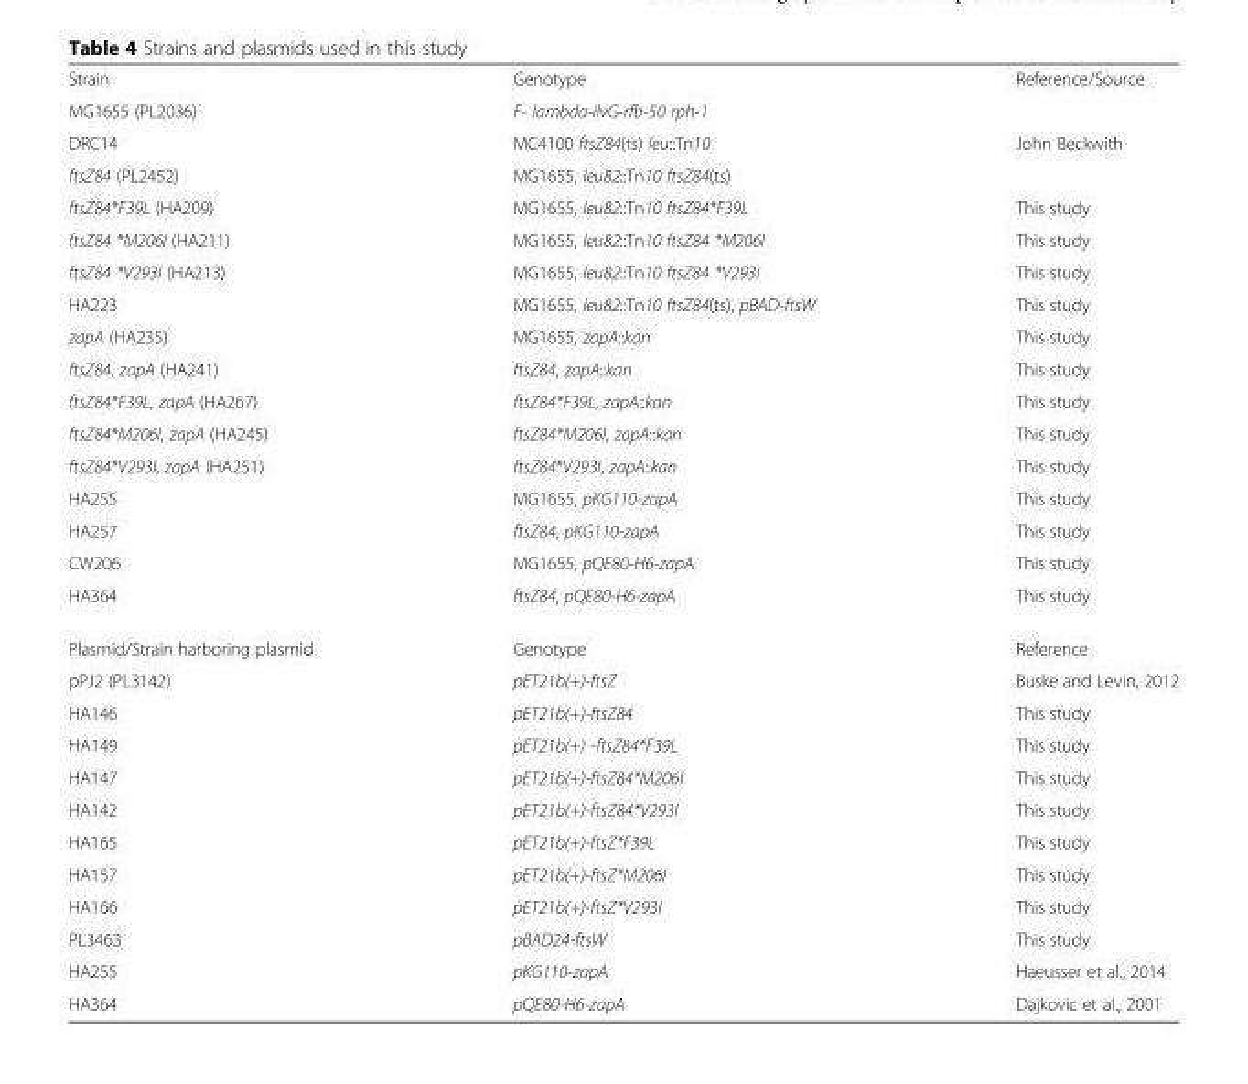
<table><tbody><tr><td>Strain</td><td>Genotype</td><td>Reference/Source</td></tr><tr><td>MG1655 (PL2036)</td><td>F- lambda-ilvG-rfb-50 rph-1</td><td></td></tr><tr><td>DRC14</td><td>MC4100 ftsZ84(ts) leu::Tn10</td><td>John Beckwith</td></tr><tr><td>ftsZ84 (PL2452)</td><td>MG1655, leu82::Tn10 ftsZ84(ts)</td><td></td></tr><tr><td>ftsZ84*F39L (HA209)</td><td>MG1655, leu82::Tn10 ftsZ84*F39L</td><td>This study</td></tr><tr><td>ftsZ84 *M206I (HA211)</td><td>MG1655, leu82::Tn10 ftsZ84 *M206I</td><td>This study</td></tr><tr><td>ftsZ84 *V293I (HA213)</td><td>MG1655, leu82::Tn10 ftsZ84 *V293I</td><td>This study</td></tr><tr><td>HA223</td><td>MG1655, leu82::Tn10 ftsZ84(ts), pBAD-ftsW</td><td>This study</td></tr><tr><td>zapA (HA235)</td><td>MG1655, zapA::kan</td><td>This study</td></tr><tr><td>ftsZ84, zapA (HA241)</td><td>ftsZ84, zapA::kan</td><td>This study</td></tr><tr><td>ftsZ84*F39L, zapA (HA267)</td><td>ftsZ84*F39L, zapA::kan</td><td>This study</td></tr><tr><td>ftsZ84*M206I, zapA (HA245)</td><td>ftsZ84*M206I, zapA::kan</td><td>This study</td></tr><tr><td>ftsZ84*V293I, zapA (HA251)</td><td>ftsZ84*V293I, zapA::kan</td><td>This study</td></tr><tr><td>HA255</td><td>MG1655, pKG110-zapA</td><td>This study</td></tr><tr><td>HA257</td><td>ftsZ84, pKG110-zapA</td><td>This study</td></tr><tr><td>CW206</td><td>MG1655, pQE80-H6-zapA</td><td>This study</td></tr><tr><td>HA364</td><td>ftsZ84, pQE80-H6-zapA</td><td>This study</td></tr><tr><td>Plasmid/Strain harboring plasmid</td><td>Genotype</td><td>Reference</td></tr><tr><td>pPJ2 (PL3142)</td><td>pET21b(+)-ftsZ</td><td>Buske and Levin, 2012</td></tr><tr><td>HA146</td><td>pET21b(+)-ftsZ84</td><td>This study</td></tr><tr><td>HA149</td><td>pET21b(+) -ftsZ84*F39L</td><td>This study</td></tr><tr><td>HA147</td><td>pET21b(+)-ftsZ84*M206I</td><td>This study</td></tr><tr><td>HA142</td><td>pET21b(+)-ftsZ84*V293I</td><td>This study</td></tr><tr><td>HA165</td><td>pET21b(+)-ftsZ*F39L</td><td>This study</td></tr><tr><td>HA157</td><td>pET21b(+)-ftsZ*M206I</td><td>This study</td></tr><tr><td>HA166</td><td>pET21b(+)-ftsZ*V293I</td><td>This study</td></tr><tr><td>PL3463</td><td>pBAD24-ftsW</td><td>This study</td></tr><tr><td>HA255</td><td>pKG110-zapA</td><td>Haeusser et al., 2014</td></tr><tr><td>HA364</td><td>pQE80-H6-zapA</td><td>Dajkovic et al., 2001</td></tr></tbody></table>